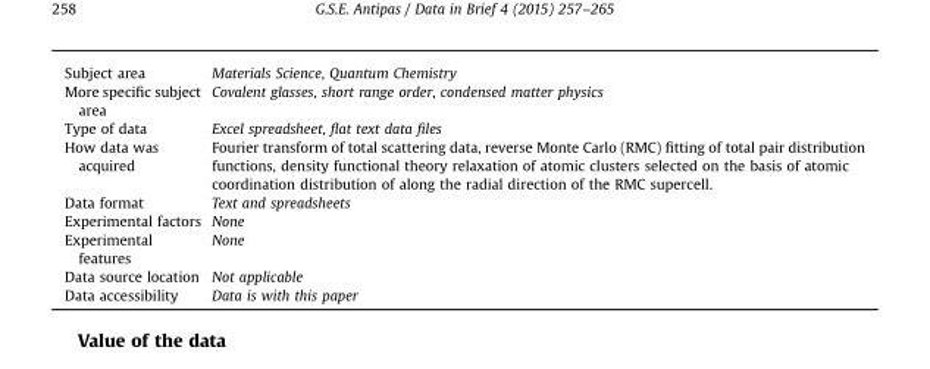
<table><tbody><tr><td>Subject area</td><td>Materials Science, Quantum Chemistry</td></tr><tr><td>More specific subject area</td><td>Covalent glasses, short range order, condensed matter physics</td></tr><tr><td>Type of data</td><td>Excel spreadsheet, flat text data files</td></tr><tr><td>How data was acquired</td><td>Fourier transform of total scattering data, reverse Monte Carlo (RMC) fitting of total pair distribution functions, density functional theory relaxation of atomic clusters selected on the basis of atomic coordination distribution of along the radial direction of the RMC supercell.</td></tr><tr><td>Data format</td><td>Text and spreadsheets</td></tr><tr><td>Experimental factors</td><td>None</td></tr><tr><td>Experimental features</td><td>None</td></tr><tr><td>Data source location</td><td>Not applicable</td></tr><tr><td>Data accessibility</td><td>Data is with this paper</td></tr></tbody></table>